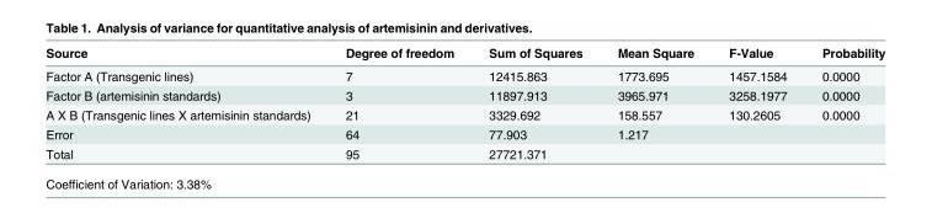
<table><thead><tr><td>Source</td><td>Degree of freedom</td><td>Sum of Squares</td><td>Mean Square</td><td>F-Value</td><td>Probability</td></tr></thead><tbody><tr><td>Factor A (Transgenic lines)</td><td>7</td><td>12415.863</td><td>1773.695</td><td>1457.1584</td><td>0.0000</td></tr><tr><td>Factor B (artemisinin standards)</td><td>3</td><td>11897.913</td><td>3965.971</td><td>3258.1977</td><td>0.0000</td></tr><tr><td>A X B (Transgenic lines X artemisinin standards)</td><td>21</td><td>3329.692</td><td>158.557</td><td>130.2605</td><td>0.0000</td></tr><tr><td>Error</td><td>64</td><td>77.903</td><td>1.217</td><td></td><td></td></tr><tr><td>Total</td><td>95</td><td>27721.371</td><td></td><td></td><td></td></tr></tbody></table>